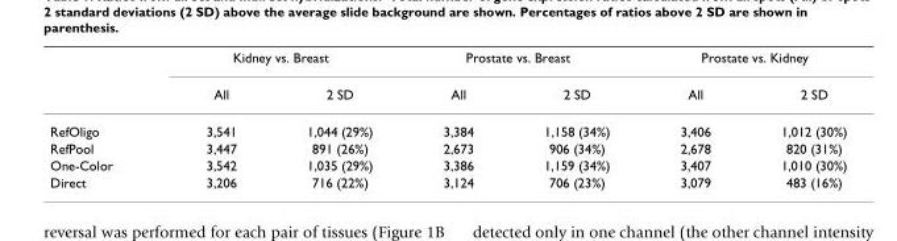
<table><thead><tr><td rowspan="2"></td><td colspan="2">Kidney vs. Breast</td><td colspan="2">Prostate vs. Breast</td><td colspan="2">Prostate vs. Kidney</td></tr><tr><td>All</td><td>2 SD</td><td>All</td><td>2 SD</td><td>All</td><td>2 SD</td></tr></thead><tbody><tr><td>RefOligo</td><td>3,541</td><td>1,044 (29%)</td><td>3,384</td><td>1,158 (34%)</td><td>3,406</td><td>1,012 (30%)</td></tr><tr><td>RefPool</td><td>3,447</td><td>891 (26%)</td><td>2,673</td><td>906 (34%)</td><td>2,678</td><td>820 (31%)</td></tr><tr><td>One-Color</td><td>3,542</td><td>1,035 (29%)</td><td>3,386</td><td>1,159 (34%)</td><td>3,407</td><td>1,010 (30%)</td></tr><tr><td>Direct</td><td>3,206</td><td>716 (22%)</td><td>3,124</td><td>706 (23%)</td><td>3,079</td><td>483 (16%)</td></tr></tbody></table>